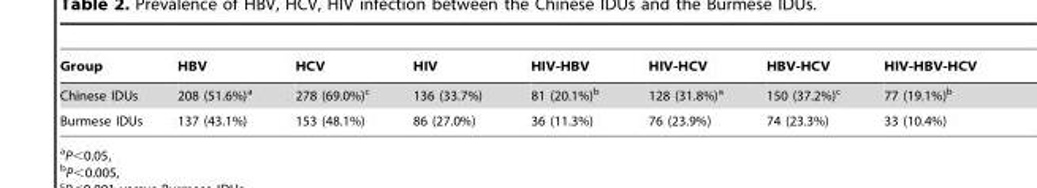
<table><thead><tr><td>Group</td><td>HBV</td><td>HCV</td><td>HIV</td><td>HIV-HBV</td><td>HIV-HCV</td><td>HBV-HCV</td><td>HIV-HBV-HCV</td></tr></thead><tbody><tr><td>Chinese IDUs</td><td>208 (51.6%)<sup>a</sup></td><td>278 (69.0%)<sup>c</sup></td><td>136 (33.7%)</td><td>81 (20.1%)<sup>b</sup></td><td>128 (31.8%)<sup>a</sup></td><td>150 (37.2%)<sup>c</sup></td><td>77 (19.1%)<sup>b</sup></td></tr><tr><td>Burmese IDUs</td><td>137 (43.1%)</td><td>153 (48.1%)</td><td>86 (27.0%)</td><td>36 (11.3%)</td><td>76 (23.9%)</td><td>74 (23.3%)</td><td>33 (10.4%)</td></tr></tbody></table>